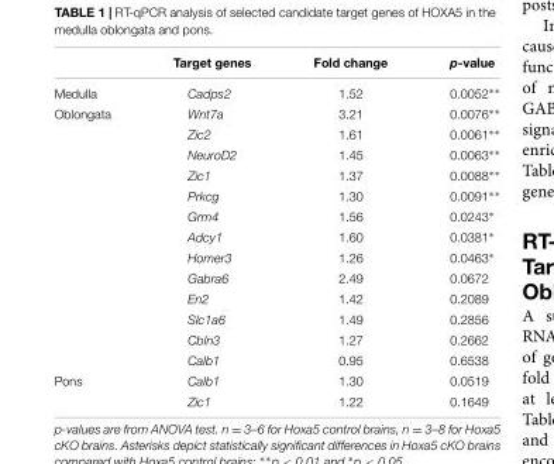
<table><thead><tr><td></td><td>Target genes</td><td>Fold change</td><td>p-value</td></tr></thead><tbody><tr><td>Medulla</td><td>Cadps2</td><td>1.52</td><td>0.0052∗∗</td></tr><tr><td rowspan="13">Oblongata</td><td>Wnt7a</td><td>3.21</td><td>0.0076∗∗</td></tr><tr><td>Zic2</td><td>1.61</td><td>0.0061∗∗</td></tr><tr><td>NeuroD2</td><td>1.45</td><td>0.0063∗∗</td></tr><tr><td>Zic1</td><td>1.37</td><td>0.0088∗∗</td></tr><tr><td>Prkcg</td><td>1.30</td><td>0.0091∗∗</td></tr><tr><td>Grm4</td><td>1.56</td><td>0.0243∗</td></tr><tr><td>Adcy1</td><td>1.60</td><td>0.0381∗</td></tr><tr><td>Homer3</td><td>1.26</td><td>0.0463∗</td></tr><tr><td>Gabra6</td><td>2.49</td><td>0.0672</td></tr><tr><td>En2</td><td>1.42</td><td>0.2089</td></tr><tr><td>Slc1a6</td><td>1.49</td><td>0.2856</td></tr><tr><td>Cbln3</td><td>1.27</td><td>0.2662</td></tr><tr><td>Calb1</td><td>0.95</td><td>0.6538</td></tr><tr><td rowspan="2">Pons</td><td>Calb1</td><td>1.30</td><td>0.0519</td></tr><tr><td>Zic1</td><td>1.22</td><td>0.1649</td></tr></tbody></table>